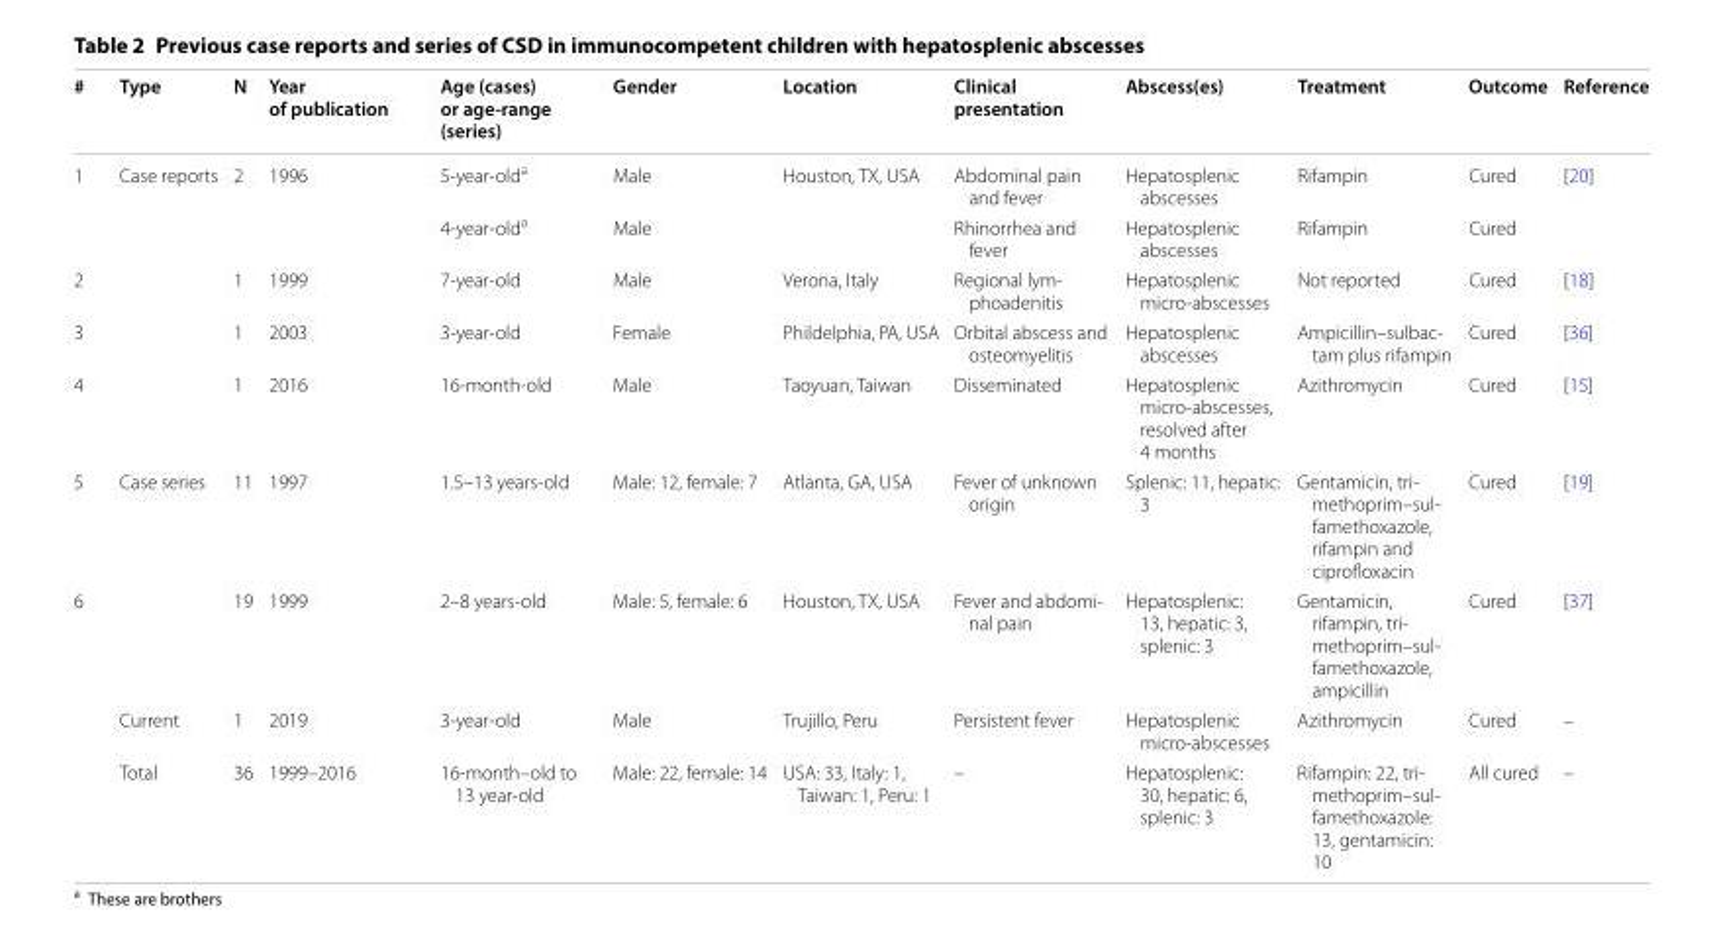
<table><thead><tr><td>#</td><td>Type</td><td>N</td><td>Year of publication</td><td>Age (cases) or age-range (series)</td><td>Gender</td><td>Location</td><td>Clinical presentation</td><td>Abscess(es)</td><td>Treatment</td><td>Outcome</td><td>Reference</td></tr></thead><tbody><tr><td rowspan="2">1</td><td rowspan="5">Case reports</td><td rowspan="2">2</td><td rowspan="2">1996</td><td>5‑year‑old<sup>a</sup></td><td>Male</td><td rowspan="2">Houston, TX, USA</td><td>Abdominal pain and fever</td><td>Hepatosplenic abscesses</td><td>Rifampin</td><td>Cured</td><td rowspan="2">[20]</td></tr><tr><td>4‑year‑old<sup>a</sup></td><td>Male</td><td>Rhinorrhea and fever</td><td>Hepatosplenic abscesses</td><td>Rifampin</td><td>Cured</td></tr><tr><td>2</td><td>1</td><td>1999</td><td>7‑year‑old</td><td>Male</td><td>Verona, Italy</td><td>Regional lym‑ phoadenitis</td><td>Hepatosplenic micro‑abscesses</td><td>Not reported</td><td>Cured</td><td>[18]</td></tr><tr><td>3</td><td>1</td><td>2003</td><td>3‑year‑old</td><td>Female</td><td>Phildelphia, PA, USA</td><td>Orbital abscess and osteomyelitis</td><td>Hepatosplenic abscesses</td><td>Ampicillin–sulbac‑ tam plus rifampin</td><td>Cured</td><td>[36]</td></tr><tr><td>4</td><td>1</td><td>2016</td><td>16‑month‑old</td><td>Male</td><td>Taoyuan, Taiwan</td><td>Disseminated</td><td>Hepatosplenic micro‑abscesses, resolved after 4 months</td><td>Azithromycin</td><td>Cured</td><td>[15]</td></tr><tr><td>5</td><td>Case series</td><td>11</td><td>1997</td><td>1.5–13 years‑old</td><td>Male: 12, female: 7</td><td>Atlanta, GA, USA</td><td>Fever of unknown origin</td><td>Splenic: 11, hepatic: 3</td><td>Gentamicin, tri‑ methoprim–sul‑ famethoxazole, rifampin and ciprofloxacin</td><td>Cured</td><td>[19]</td></tr><tr><td rowspan="3">6</td><td></td><td>19</td><td>1999</td><td>2–8 years‑old</td><td>Male: 5, female: 6</td><td>Houston, TX, USA</td><td>Fever and abdomi‑ nal pain</td><td>Hepatosplenic: 13, hepatic: 3, splenic: 3</td><td>Gentamicin, rifampin, tri‑ methoprim–sul‑ famethoxazole, ampicillin</td><td>Cured</td><td>[37]</td></tr><tr><td>Current</td><td>1</td><td>2019</td><td>3‑year‑old</td><td>Male</td><td>Trujillo, Peru</td><td>Persistent fever</td><td>Hepatosplenic micro‑abscesses</td><td>Azithromycin</td><td>Cured</td><td>–</td></tr><tr><td>Total</td><td>36</td><td>1999–2016</td><td>16‑month–old to 13 year‑old</td><td>Male: 22, female: 14</td><td>USA: 33, Italy: 1, Taiwan: 1, Peru: 1</td><td>–</td><td>Hepatosplenic: 30, hepatic: 6, splenic: 3</td><td>Rifampin: 22, tri‑ methoprim–sul‑ famethoxazole: 13, gentamicin: 10</td><td>All cured</td><td>–</td></tr></tbody></table>